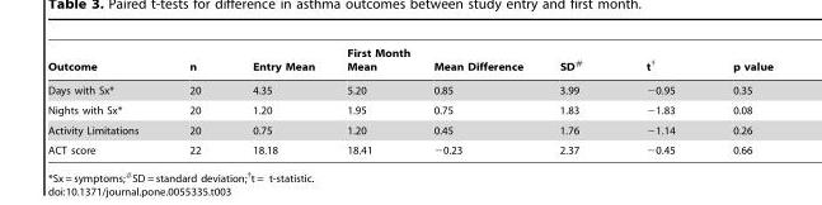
<table><thead><tr><td>Outcome</td><td>n</td><td>Entry Mean</td><td>First Month Mean</td><td>Mean Difference</td><td>SD<sup>#</sup></td><td>t<sup>†</sup></td><td>p value</td></tr></thead><tbody><tr><td>Days with Sx*</td><td>20</td><td>4.35</td><td>5.20</td><td>0.85</td><td>3.99</td><td>−0.95</td><td>0.35</td></tr><tr><td>Nights with Sx*</td><td>20</td><td>1.20</td><td>1.95</td><td>0.75</td><td>1.83</td><td>−1.83</td><td>0.08</td></tr><tr><td>Activity Limitations</td><td>20</td><td>0.75</td><td>1.20</td><td>0.45</td><td>1.76</td><td>−1.14</td><td>0.26</td></tr><tr><td>ACT score</td><td>22</td><td>18.18</td><td>18.41</td><td>−0.23</td><td>2.37</td><td>−0.45</td><td>0.66</td></tr></tbody></table>